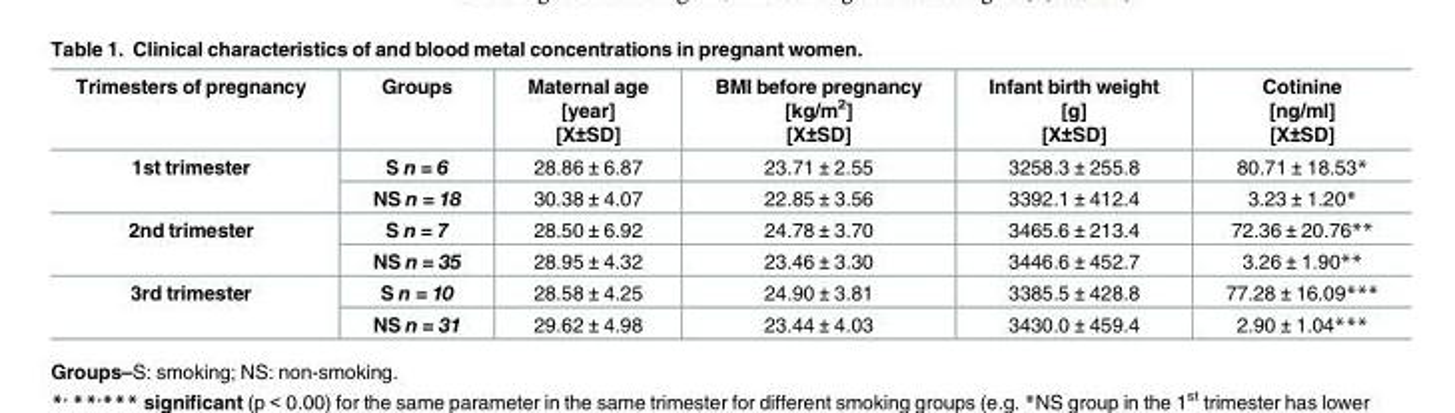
<table><thead><tr><td>Trimesters of pregnancy</td><td>Groups</td><td>Maternal age [year] [X±SD]</td><td>BMI before pregnancy [kg/m<sup>2</sup>] [X±SD]</td><td>Infant birth weight [g] [X±SD]</td><td>Cotinine [ng/ml] [X±SD]</td></tr></thead><tbody><tr><td rowspan="2">1st trimester</td><td>S n = 6</td><td>28.86 ± 6.87</td><td>23.71 ± 2.55</td><td>3258.3 ± 255.8</td><td>80.71 ± 18.53*</td></tr><tr><td>NS n = 18</td><td>30.38 ± 4.07</td><td>22.85 ± 3.56</td><td>3392.1 ± 412.4</td><td>3.23 ± 1.20*</td></tr><tr><td rowspan="2">2nd trimester</td><td>S n = 7</td><td>28.50 ± 6.92</td><td>24.78 ± 3.70</td><td>3465.6 ± 213.4</td><td>72.36 ± 20.76**</td></tr><tr><td>NS n = 35</td><td>28.95 ± 4.32</td><td>23.46 ± 3.30</td><td>3446.6 ± 452.7</td><td>3.26 ± 1.90**</td></tr><tr><td rowspan="2">3rd trimester</td><td>S n = 10</td><td>28.58 ± 4.25</td><td>24.90 ± 3.81</td><td>3385.5 ± 428.8</td><td>77.28 ± 16.09***</td></tr><tr><td>NS n = 31</td><td>29.62 ± 4.98</td><td>23.44 ± 4.03</td><td>3430.0 ± 459.4</td><td>2.90 ± 1.04***</td></tr></tbody></table>